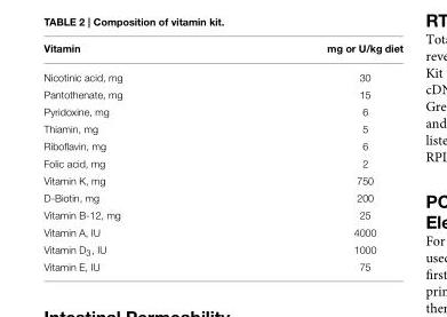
<table><thead><tr><td>Vitamin</td><td>mg or U/kg diet</td></tr></thead><tbody><tr><td>Nicotinic acid, mg</td><td>30</td></tr><tr><td>Pantothenate, mg</td><td>15</td></tr><tr><td>Pyridoxine, mg</td><td>6</td></tr><tr><td>Thiamin, mg</td><td>5</td></tr><tr><td>Riboflavin, mg</td><td>6</td></tr><tr><td>Folic acid, mg</td><td>2</td></tr><tr><td>Vitamin K, mg</td><td>750</td></tr><tr><td>D-Biotin, mg</td><td>200</td></tr><tr><td>Vitamin B-12, mg</td><td>25</td></tr><tr><td>Vitamin A, IU</td><td>4000</td></tr><tr><td>Vitamin D<sub>3</sub>, IU</td><td>1000</td></tr><tr><td>Vitamin E, IU</td><td>75</td></tr></tbody></table>